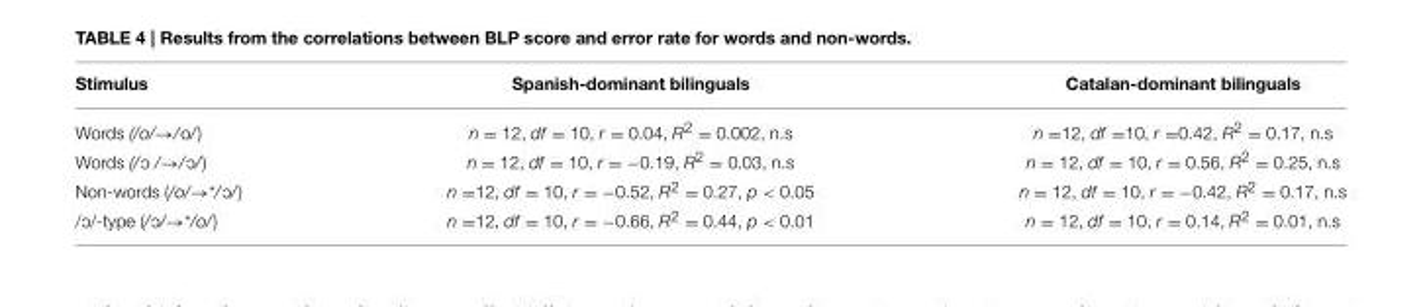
<table><thead><tr><td>Stimulus</td><td>Spanish-dominant bilinguals</td><td>Catalan-dominant bilinguals</td></tr></thead><tbody><tr><td>Words (/o/→/o/)</td><td>n = 12, df = 10, r = 0.04, R<sup>2</sup> = 0.002, n.s</td><td>n =12, df =10, r =0.42, R<sup>2</sup> = 0.17, n.s</td></tr><tr><td>Words (/ c /→/ c /)</td><td>n = 12, df = 10, r = −0.19, R<sup>2</sup> = 0.03, n.s</td><td>n = 12, df = 10, r = 0.56, R<sup>2</sup> = 0.25, n.s</td></tr><tr><td>Non-words (/o/→*/ c /)</td><td>n =12, df = 10, r = −0.52, R<sup>2</sup> = 0.27, p &lt; 0.05</td><td>n = 12, df = 10, r = −0.42, R<sup>2</sup> = 0.17, n.s</td></tr><tr><td>/ c /-type (/ c /→*/o/)</td><td>n =12, df = 10, r = −0.66, R<sup>2</sup> = 0.44, p &lt; 0.01</td><td>n = 12, df = 10, r = 0.14, R<sup>2</sup> = 0.01, n.s</td></tr></tbody></table>